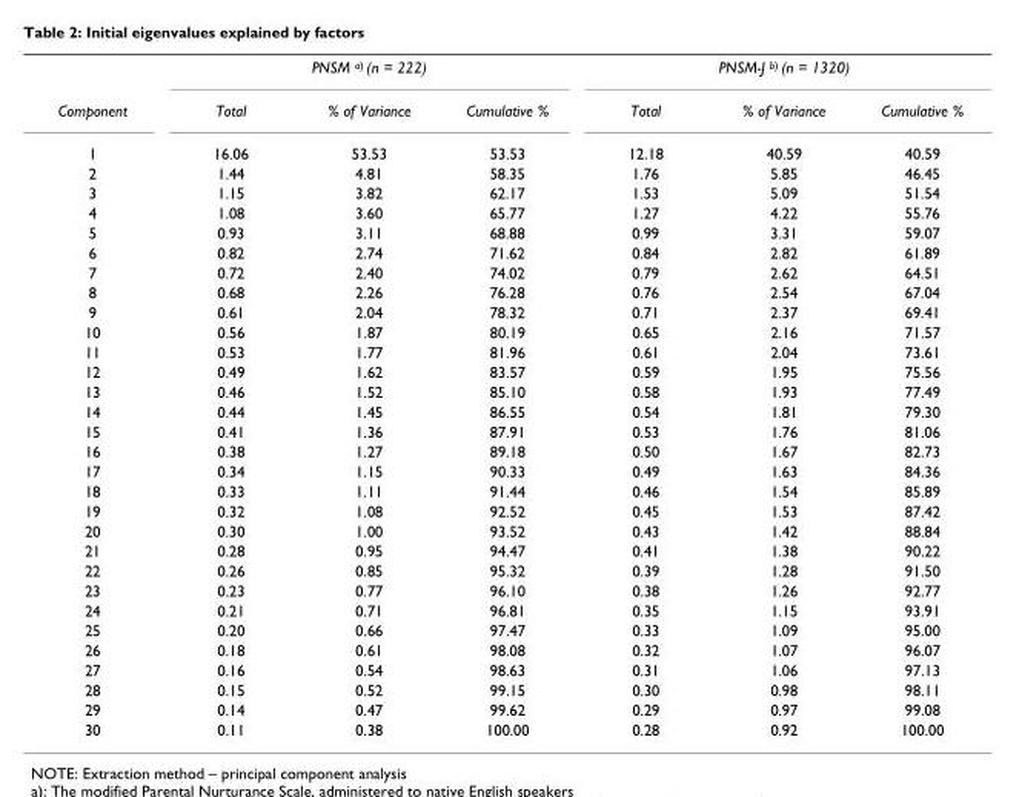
<table><thead><tr><td rowspan="2">Component</td><td colspan="3">PNSM <sup>a)</sup> (n = 222)</td><td colspan="3">PNSM-J <sup>b)</sup> (n = 1320)</td></tr><tr><td>Total</td><td>% of Variance</td><td>Cumulative %</td><td>Total</td><td>% of Variance</td><td>Cumulative %</td></tr></thead><tbody><tr><td>1</td><td>16.06</td><td>53.53</td><td>53.53</td><td>12.18</td><td>40.59</td><td>40.59</td></tr><tr><td>2</td><td>1.44</td><td>4.81</td><td>58.35</td><td>1.76</td><td>5.85</td><td>46.45</td></tr><tr><td>3</td><td>1.15</td><td>3.82</td><td>62.17</td><td>1.53</td><td>5.09</td><td>51.54</td></tr><tr><td>4</td><td>1.08</td><td>3.60</td><td>65.77</td><td>1.27</td><td>4.22</td><td>55.76</td></tr><tr><td>5</td><td>0.93</td><td>3.11</td><td>68.88</td><td>0.99</td><td>3.31</td><td>59.07</td></tr><tr><td>6</td><td>0.82</td><td>2.74</td><td>71.62</td><td>0.84</td><td>2.82</td><td>61.89</td></tr><tr><td>7</td><td>0.72</td><td>2.40</td><td>74.02</td><td>0.79</td><td>2.62</td><td>64.51</td></tr><tr><td>8</td><td>0.68</td><td>2.26</td><td>76.28</td><td>0.76</td><td>2.54</td><td>67.04</td></tr><tr><td>9</td><td>0.61</td><td>2.04</td><td>78.32</td><td>0.71</td><td>2.37</td><td>69.41</td></tr><tr><td>10</td><td>0.56</td><td>1.87</td><td>80.19</td><td>0.65</td><td>2.16</td><td>71.57</td></tr><tr><td>11</td><td>0.53</td><td>1.77</td><td>81.96</td><td>0.61</td><td>2.04</td><td>73.61</td></tr><tr><td>12</td><td>0.49</td><td>1.62</td><td>83.57</td><td>0.59</td><td>1.95</td><td>75.56</td></tr><tr><td>13</td><td>0.46</td><td>1.52</td><td>85.10</td><td>0.58</td><td>1.93</td><td>77.49</td></tr><tr><td>14</td><td>0.44</td><td>1.45</td><td>86.55</td><td>0.54</td><td>1.81</td><td>79.30</td></tr><tr><td>15</td><td>0.41</td><td>1.36</td><td>87.91</td><td>0.53</td><td>1.76</td><td>81.06</td></tr><tr><td>16</td><td>0.38</td><td>1.27</td><td>89.18</td><td>0.50</td><td>1.67</td><td>82.73</td></tr><tr><td>17</td><td>0.34</td><td>1.15</td><td>90.33</td><td>0.49</td><td>1.63</td><td>84.36</td></tr><tr><td>18</td><td>0.33</td><td>1.11</td><td>91.44</td><td>0.46</td><td>1.54</td><td>85.89</td></tr><tr><td>19</td><td>0.32</td><td>1.08</td><td>92.52</td><td>0.45</td><td>1.53</td><td>87.42</td></tr><tr><td>20</td><td>0.30</td><td>1.00</td><td>93.52</td><td>0.43</td><td>1.42</td><td>88.84</td></tr><tr><td>21</td><td>0.28</td><td>0.95</td><td>94.47</td><td>0.41</td><td>1.38</td><td>90.22</td></tr><tr><td>22</td><td>0.26</td><td>0.85</td><td>95.32</td><td>0.39</td><td>1.28</td><td>91.50</td></tr><tr><td>23</td><td>0.23</td><td>0.77</td><td>96.10</td><td>0.38</td><td>1.26</td><td>92.77</td></tr><tr><td>24</td><td>0.21</td><td>0.71</td><td>96.81</td><td>0.35</td><td>1.15</td><td>93.91</td></tr><tr><td>25</td><td>0.20</td><td>0.66</td><td>97.47</td><td>0.33</td><td>1.09</td><td>95.00</td></tr><tr><td>26</td><td>0.18</td><td>0.61</td><td>98.08</td><td>0.32</td><td>1.07</td><td>96.07</td></tr><tr><td>27</td><td>0.16</td><td>0.54</td><td>98.63</td><td>0.31</td><td>1.06</td><td>97.13</td></tr><tr><td>28</td><td>0.15</td><td>0.52</td><td>99.15</td><td>0.30</td><td>0.98</td><td>98.11</td></tr><tr><td>29</td><td>0.14</td><td>0.47</td><td>99.62</td><td>0.29</td><td>0.97</td><td>99.08</td></tr><tr><td>30</td><td>0.11</td><td>0.38</td><td>100.00</td><td>0.28</td><td>0.92</td><td>100.00</td></tr></tbody></table>